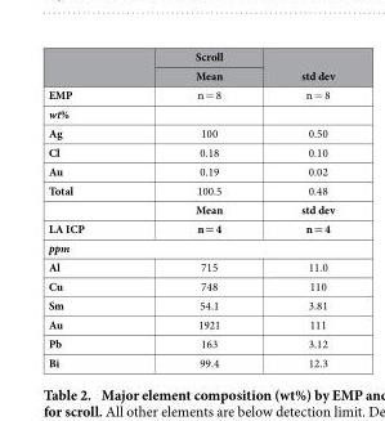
<table><thead><tr><td rowspan="2"></td><td rowspan="2">Scroll Mean</td><td rowspan="2">std dev</td></tr><tr></tr></thead><tbody><tr><td>EMP</td><td>n = 8</td><td>n = 8</td></tr><tr><td colspan="3">wt%</td></tr><tr><td>Ag</td><td>100</td><td>0.50</td></tr><tr><td>Cl</td><td>0.18</td><td>0.10</td></tr><tr><td>Au</td><td>0.19</td><td>0.02</td></tr><tr><td rowspan="2">Total</td><td>100.5</td><td>0.48</td></tr><tr><td>Mean</td><td>std dev</td></tr><tr><td>LA ICP</td><td>n = 4</td><td>n = 4</td></tr><tr><td colspan="3">ppm</td></tr><tr><td>Al</td><td>715</td><td>11.0</td></tr><tr><td>Cu</td><td>748</td><td>110</td></tr><tr><td>Sm</td><td>54.1</td><td>3.81</td></tr><tr><td>Au</td><td>1921</td><td>111</td></tr><tr><td>Pb</td><td>163</td><td>3.12</td></tr><tr><td>Bi</td><td>99.4</td><td>12.3</td></tr></tbody></table>